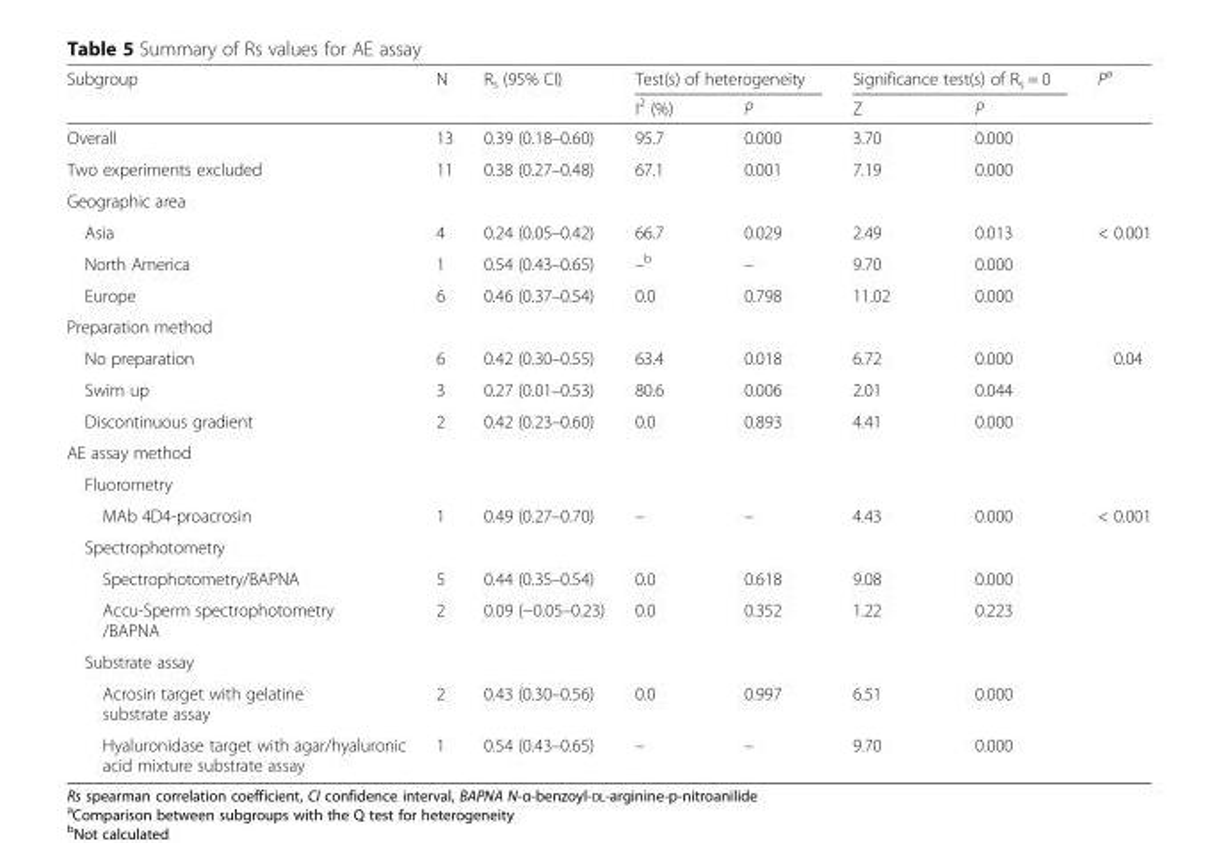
<table><thead><tr><td rowspan="2">Subgroup</td><td rowspan="2">N</td><td rowspan="2">R<sub>s</sub> (95% CI)</td><td colspan="2">Test(s) of heterogeneity</td><td colspan="2">Significance test(s) of R<sub>s</sub> = 0</td><td rowspan="2">P<sup>a</sup></td></tr><tr><td>I<sup>2</sup> (%)</td><td>P</td><td>Z</td><td>P</td></tr></thead><tbody><tr><td>Overall</td><td>13</td><td>0.39 (0.18–0.60)</td><td>95.7</td><td>0.000</td><td>3.70</td><td>0.000</td><td></td></tr><tr><td>Two experiments excluded</td><td>11</td><td>0.38 (0.27–0.48)</td><td>67.1</td><td>0.001</td><td>7.19</td><td>0.000</td><td></td></tr><tr><td colspan="8">Geographic area</td></tr><tr><td>Asia</td><td>4</td><td>0.24 (0.05–0.42)</td><td>66.7</td><td>0.029</td><td>2.49</td><td>0.013</td><td>&lt; 0.001</td></tr><tr><td>North America</td><td>1</td><td>0.54 (0.43–0.65)</td><td>–<sup>b</sup></td><td>–</td><td>9.70</td><td>0.000</td><td></td></tr><tr><td>Europe</td><td>6</td><td>0.46 (0.37–0.54)</td><td>0.0</td><td>0.798</td><td>11.02</td><td>0.000</td><td></td></tr><tr><td colspan="8">Preparation method</td></tr><tr><td>No preparation</td><td>6</td><td>0.42 (0.30–0.55)</td><td>63.4</td><td>0.018</td><td>6.72</td><td>0.000</td><td>0.04</td></tr><tr><td>Swim up</td><td>3</td><td>0.27 (0.01–0.53)</td><td>80.6</td><td>0.006</td><td>2.01</td><td>0.044</td><td></td></tr><tr><td>Discontinuous gradient</td><td>2</td><td>0.42 (0.23–0.60)</td><td>0.0</td><td>0.893</td><td>4.41</td><td>0.000</td><td></td></tr><tr><td colspan="8">AE assay method</td></tr><tr><td colspan="8">Fluorometry</td></tr><tr><td>MAb 4D4-proacrosin</td><td>1</td><td>0.49 (0.27–0.70)</td><td>–</td><td>–</td><td>4.43</td><td>0.000</td><td>&lt; 0.001</td></tr><tr><td colspan="8">Spectrophotometry</td></tr><tr><td>Spectrophotometry/BAPNA</td><td>5</td><td>0.44 (0.35–0.54)</td><td>0.0</td><td>0.618</td><td>9.08</td><td>0.000</td><td></td></tr><tr><td>Accu-Sperm spectrophotometry /BAPNA</td><td>2</td><td>0.09 (−0.05–0.23)</td><td>0.0</td><td>0.352</td><td>1.22</td><td>0.223</td><td></td></tr><tr><td colspan="8">Substrate assay</td></tr><tr><td>Acrosin target with gelatine substrate assay</td><td>2</td><td>0.43 (0.30–0.56)</td><td>0.0</td><td>0.997</td><td>6.51</td><td>0.000</td><td></td></tr><tr><td>Hyaluronidase target with agar/hyaluronic acid mixture substrate assay</td><td>1</td><td>0.54 (0.43–0.65)</td><td>–</td><td>–</td><td>9.70</td><td>0.000</td><td></td></tr></tbody></table>